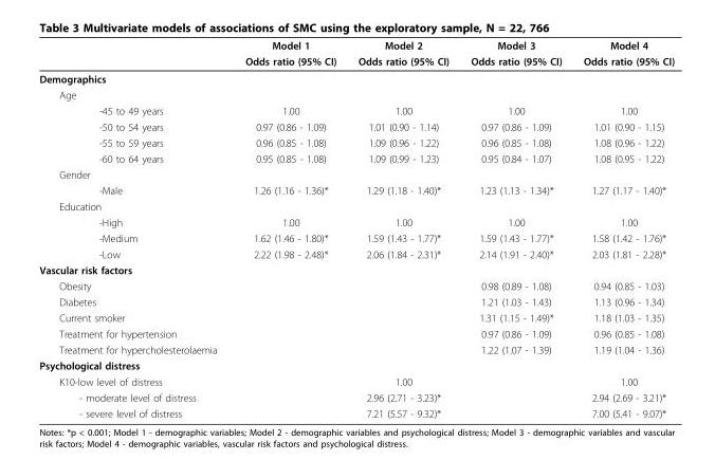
<table><thead><tr><td rowspan="2"></td><td rowspan="2">Model 1 Odds ratio (95% CI)</td><td rowspan="2">Model 2 Odds ratio (95% CI)</td><td rowspan="2">Model 3 Odds ratio (95% CI)</td><td rowspan="2">Model 4 Odds ratio (95% CI)</td></tr><tr></tr></thead><tbody><tr><td colspan="5">Demographics</td></tr><tr><td colspan="5">Age</td></tr><tr><td>-45 to 49 years</td><td>1.00</td><td>1.00</td><td>1.00</td><td>1.00</td></tr><tr><td>-50 to 54 years</td><td>0.97 (0.86 - 1.09)</td><td>1.01 (0.90 - 1.14)</td><td>0.97 (0.86 - 1.09)</td><td>1.01 (0.90 - 1.15)</td></tr><tr><td>-55 to 59 years</td><td>0.96 (0.85 - 1.08)</td><td>1.09 (0.96 - 1.22)</td><td>0.96 (0.85 - 1.08)</td><td>1.08 (0.96 - 1.22)</td></tr><tr><td>-60 to 64 years</td><td>0.95 (0.85 - 1.08)</td><td>1.09 (0.99 - 1.23)</td><td>0.95 (0.84 - 1.07)</td><td>1.08 (0.95 - 1.22)</td></tr><tr><td colspan="5">Gender</td></tr><tr><td>-Male</td><td>1.26 (1.16 - 1.36)*</td><td>1.29 (1.18 - 1.40)*</td><td>1.23 (1.13 - 1.34)*</td><td>1.27 (1.17 - 1.40)*</td></tr><tr><td colspan="5">Education</td></tr><tr><td>-High</td><td>1.00</td><td>1.00</td><td>1.00</td><td>1.00</td></tr><tr><td>-Medium</td><td>1.62 (1.46 - 1.80)*</td><td>1.59 (1.43 - 1.77)*</td><td>1.59 (1.43 - 1.77)*</td><td>1.58 (1.42 - 1.76)*</td></tr><tr><td>-Low</td><td>2.22 (1.98 - 2.48)*</td><td>2.06 (1.84 - 2.31)*</td><td>2.14 (1.91 - 2.40)*</td><td>2.03 (1.81 - 2.28)*</td></tr><tr><td colspan="5">Vascular risk factors</td></tr><tr><td>Obesity</td><td></td><td></td><td>0.98 (0.89 - 1.08)</td><td>0.94 (0.85 - 1.03)</td></tr><tr><td>Diabetes</td><td></td><td></td><td>1.21 (1.03 - 1.43)</td><td>1.13 (0.96 - 1.34)</td></tr><tr><td>Current smoker</td><td></td><td></td><td>1.31 (1.15 - 1.49)*</td><td>1.18 (1.03 - 1.35)</td></tr><tr><td>Treatment for hypertension</td><td></td><td></td><td>0.97 (0.86 - 1.09)</td><td>0.96 (0.85 - 1.08)</td></tr><tr><td>Treatment for hypercholesterolaemia</td><td></td><td></td><td>1.22 (1.07 - 1.39)</td><td>1.19 (1.04 - 1.36)</td></tr><tr><td colspan="5">Psychological distress</td></tr><tr><td>K10-low level of distress</td><td></td><td>1.00</td><td></td><td>1.00</td></tr><tr><td>- moderate level of distress</td><td></td><td>2.96 (2.71 - 3.23)*</td><td></td><td>2.94 (2.69 - 3.21)*</td></tr><tr><td>- severe level of distress</td><td></td><td>7.21 (5.57 - 9.32)*</td><td></td><td>7.00 (5.41 - 9.07)*</td></tr></tbody></table>